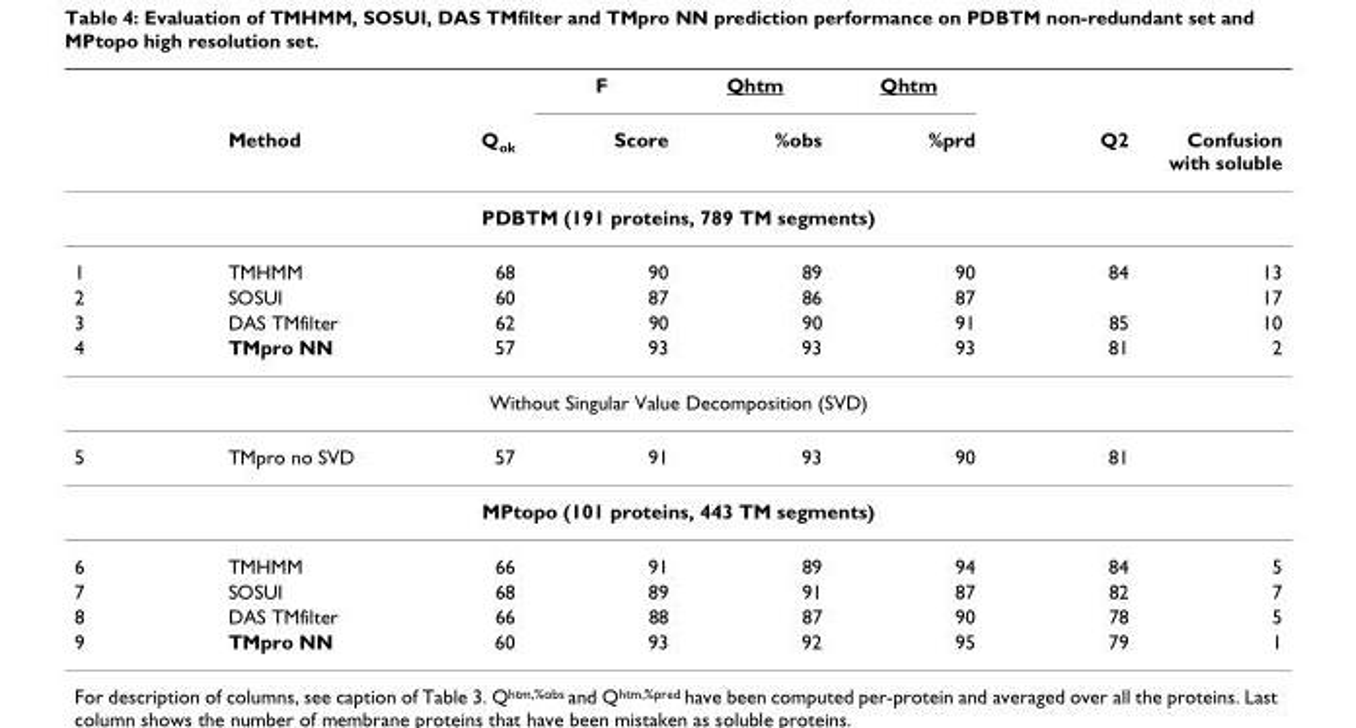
<table><thead><tr><td rowspan="2"></td><td rowspan="2">Method</td><td rowspan="2">Qok</td><td rowspan="2">F Score</td><td rowspan="2">Qhtm %obs</td><td rowspan="2">Qhtm %prd</td><td rowspan="2">Q2</td><td rowspan="2">Confusion with soluble</td></tr><tr></tr></thead><tbody><tr><td colspan="8">PDBTM (191 proteins, 789 TM segments)</td></tr><tr><td>1</td><td>TMHMM</td><td>68</td><td>90</td><td>89</td><td>90</td><td>84</td><td>13</td></tr><tr><td>2</td><td>SOSUI</td><td>60</td><td>87</td><td>86</td><td>87</td><td></td><td>17</td></tr><tr><td>3</td><td>DAS TMfilter</td><td>62</td><td>90</td><td>90</td><td>91</td><td>85</td><td>10</td></tr><tr><td>4</td><td>TMpro NN</td><td>57</td><td>93</td><td>93</td><td>93</td><td>81</td><td>2</td></tr><tr><td colspan="8">Without Singular Value Decomposition (SVD)</td></tr><tr><td>5</td><td>TMpro no SVD</td><td>57</td><td>91</td><td>93</td><td>90</td><td>81</td><td></td></tr><tr><td colspan="8">MPtopo (101 proteins, 443 TM segments)</td></tr><tr><td>6</td><td>TMHMM</td><td>66</td><td>91</td><td>89</td><td>94</td><td>84</td><td>5</td></tr><tr><td>7</td><td>SOSUI</td><td>68</td><td>89</td><td>91</td><td>87</td><td>82</td><td>7</td></tr><tr><td>8</td><td>DAS TMfilter</td><td>66</td><td>88</td><td>87</td><td>90</td><td>78</td><td>5</td></tr><tr><td>9</td><td>TMpro NN</td><td>60</td><td>93</td><td>92</td><td>95</td><td>79</td><td>1</td></tr></tbody></table>